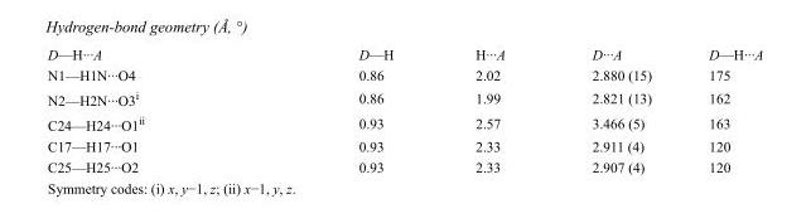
<table><tbody><tr><td>D—H···A</td><td>D—H</td><td>H···A</td><td>D···A</td><td>D—H···A</td></tr><tr><td>N1—H1N···O4</td><td>0.86</td><td>2.02</td><td>2.880 (15)</td><td>175</td></tr><tr><td>N2—H2N···O3<sup>i</sup></td><td>0.86</td><td>1.99</td><td>2.821 (13)</td><td>162</td></tr><tr><td>C24—H24···O1<sup>ii</sup></td><td>0.93</td><td>2.57</td><td>3.466 (5)</td><td>163</td></tr><tr><td>C17—H17···O1</td><td>0.93</td><td>2.33</td><td>2.911 (4)</td><td>120</td></tr><tr><td>C25—H25···O2</td><td>0.93</td><td>2.33</td><td>2.907 (4)</td><td>120</td></tr></tbody></table>